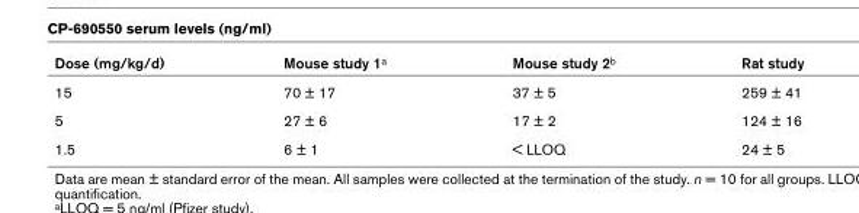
<table><thead><tr><td>Dose (mg/kg/d)</td><td>Mouse study 1<sup>a</sup></td><td>Mouse study 2<sup>b</sup></td><td>Rat study</td></tr></thead><tbody><tr><td>15</td><td>70 ± 17</td><td>37 ± 5</td><td>259 ± 41</td></tr><tr><td>5</td><td>27 ± 6</td><td>17 ± 2</td><td>124 ± 16</td></tr><tr><td>1.5</td><td>6 ± 1</td><td>&lt; LLOQ</td><td>24 ± 5</td></tr></tbody></table>